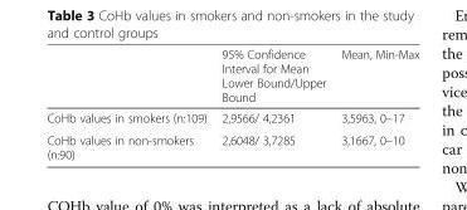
<table><thead><tr><td></td><td>95% Confidence Interval for Mean Lower Bound/Upper Bound</td><td>Mean, Min-Max</td></tr></thead><tbody><tr><td>CoHb values in smokers (n:109)</td><td>2,9566/ 4,2361</td><td>3,5963, 0–17</td></tr><tr><td>CoHb values in non-smokers (n:90)</td><td>2,6048/ 3,7285</td><td>3,1667, 0–10</td></tr></tbody></table>